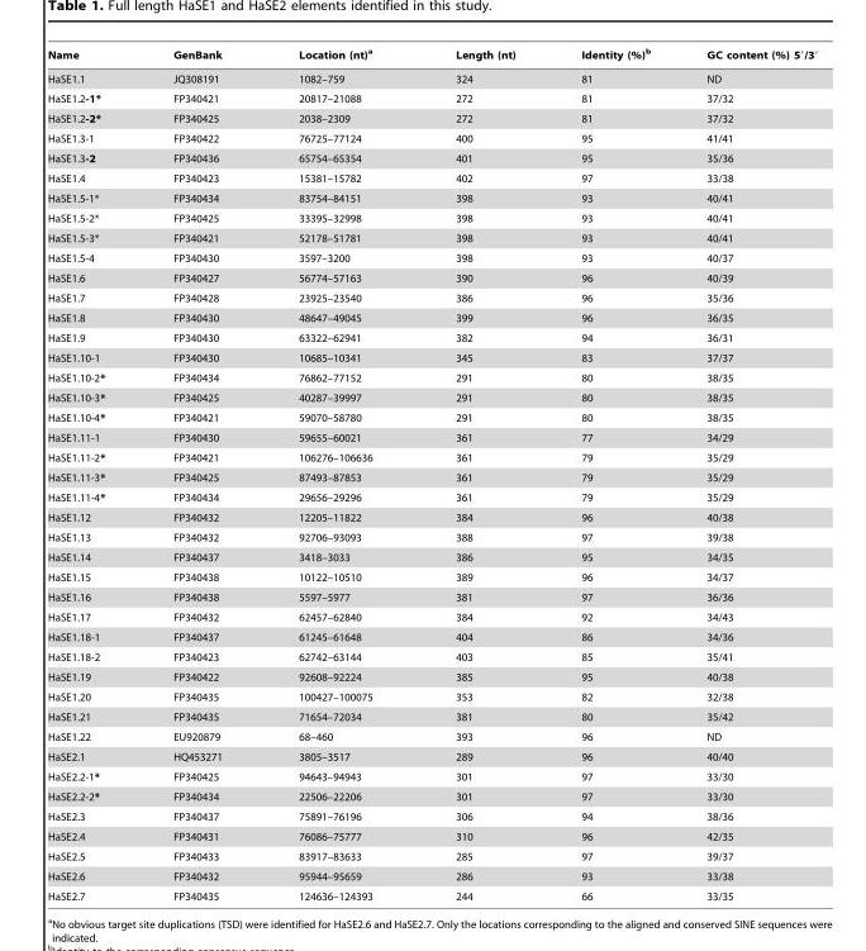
<table><thead><tr><td>Name</td><td>GenBank</td><td>Location (nt)<sup>a</sup></td><td>Length (nt)</td><td>Identity (%)<sup>b</sup></td><td>GC content (%) 5′/3′</td></tr></thead><tbody><tr><td>HaSE1.1</td><td>JQ308191</td><td>1082–759</td><td>324</td><td>81</td><td>ND</td></tr><tr><td>HaSE1.2-1*</td><td>FP340421</td><td>20817–21088</td><td>272</td><td>81</td><td>37/32</td></tr><tr><td>HaSE1.2-2*</td><td>FP340425</td><td>2038–2309</td><td>272</td><td>81</td><td>37/32</td></tr><tr><td>HaSE1.3-1</td><td>FP340422</td><td>76725–77124</td><td>400</td><td>95</td><td>41/41</td></tr><tr><td>HaSE1.3-2</td><td>FP340436</td><td>65754–65354</td><td>401</td><td>95</td><td>35/36</td></tr><tr><td>HaSE1.4</td><td>FP340423</td><td>15381–15782</td><td>402</td><td>97</td><td>33/38</td></tr><tr><td>HaSE1.5-1*</td><td>FP340434</td><td>83754–84151</td><td>398</td><td>93</td><td>40/41</td></tr><tr><td>HaSE1.5-2*</td><td>FP340425</td><td>33395–32998</td><td>398</td><td>93</td><td>40/41</td></tr><tr><td>HaSE1.5-3*</td><td>FP340421</td><td>52178–51781</td><td>398</td><td>93</td><td>40/41</td></tr><tr><td>HaSE1.5-4</td><td>FP340430</td><td>3597–3200</td><td>398</td><td>93</td><td>40/37</td></tr><tr><td>HaSE1.6</td><td>FP340427</td><td>56774–57163</td><td>390</td><td>96</td><td>40/39</td></tr><tr><td>HaSE1.7</td><td>FP340428</td><td>23925–23540</td><td>386</td><td>96</td><td>35/36</td></tr><tr><td>HaSE1.8</td><td>FP340430</td><td>48647–49045</td><td>399</td><td>96</td><td>36/35</td></tr><tr><td>HaSE1.9</td><td>FP340430</td><td>63322–62941</td><td>382</td><td>94</td><td>36/31</td></tr><tr><td>HaSE1.10-1</td><td>FP340430</td><td>10685–10341</td><td>345</td><td>83</td><td>37/37</td></tr><tr><td>HaSE1.10-2*</td><td>FP340434</td><td>76862–77152</td><td>291</td><td>80</td><td>38/35</td></tr><tr><td>HaSE1.10-3*</td><td>FP340425</td><td>40287–39997</td><td>291</td><td>80</td><td>38/35</td></tr><tr><td>HaSE1.10-4*</td><td>FP340421</td><td>59070–58780</td><td>291</td><td>80</td><td>38/35</td></tr><tr><td>HaSE1.11-1</td><td>FP340430</td><td>59655–60021</td><td>361</td><td>77</td><td>34/29</td></tr><tr><td>HaSE1.11-2*</td><td>FP340421</td><td>106276–106636</td><td>361</td><td>79</td><td>35/29</td></tr><tr><td>HaSE1.11-3*</td><td>FP340425</td><td>87493–87853</td><td>361</td><td>79</td><td>35/29</td></tr><tr><td>HaSE1.11-4*</td><td>FP340434</td><td>29656–29296</td><td>361</td><td>79</td><td>35/29</td></tr><tr><td>HaSE1.12</td><td>FP340432</td><td>12205–11822</td><td>384</td><td>96</td><td>40/38</td></tr><tr><td>HaSE1.13</td><td>FP340432</td><td>92706–93093</td><td>388</td><td>97</td><td>39/38</td></tr><tr><td>HaSE1.14</td><td>FP340437</td><td>3418–3033</td><td>386</td><td>95</td><td>34/35</td></tr><tr><td>HaSE1.15</td><td>FP340438</td><td>10122–10510</td><td>389</td><td>96</td><td>34/37</td></tr><tr><td>HaSE1.16</td><td>FP340438</td><td>5597–5977</td><td>381</td><td>97</td><td>36/36</td></tr><tr><td>HaSE1.17</td><td>FP340432</td><td>62457–62840</td><td>384</td><td>92</td><td>34/43</td></tr><tr><td>HaSE1.18-1</td><td>FP340437</td><td>61245–61648</td><td>404</td><td>86</td><td>34/36</td></tr><tr><td>HaSE1.18-2</td><td>FP340423</td><td>62742–63144</td><td>403</td><td>85</td><td>35/41</td></tr><tr><td>HaSE1.19</td><td>FP340422</td><td>92608–92224</td><td>385</td><td>95</td><td>40/38</td></tr><tr><td>HaSE1.20</td><td>FP340435</td><td>100427–100075</td><td>353</td><td>82</td><td>32/38</td></tr><tr><td>HaSE1.21</td><td>FP340435</td><td>71654–72034</td><td>381</td><td>80</td><td>35/42</td></tr><tr><td>HaSE1.22</td><td>EU920879</td><td>68–460</td><td>393</td><td>96</td><td>ND</td></tr><tr><td>HaSE2.1</td><td>HQ453271</td><td>3805–3517</td><td>289</td><td>96</td><td>40/40</td></tr><tr><td>HaSE2.2-1*</td><td>FP340425</td><td>94643–94943</td><td>301</td><td>97</td><td>33/30</td></tr><tr><td>HaSE2.2-2*</td><td>FP340434</td><td>22506–22206</td><td>301</td><td>97</td><td>33/30</td></tr><tr><td>HaSE2.3</td><td>FP340437</td><td>75891–76196</td><td>306</td><td>94</td><td>38/36</td></tr><tr><td>HaSE2.4</td><td>FP340431</td><td>76086–75777</td><td>310</td><td>96</td><td>42/35</td></tr><tr><td>HaSE2.5</td><td>FP340433</td><td>83917–83633</td><td>285</td><td>97</td><td>39/37</td></tr><tr><td>HaSE2.6</td><td>FP340432</td><td>95944–95659</td><td>286</td><td>93</td><td>33/38</td></tr><tr><td>HaSE2.7</td><td>FP340435</td><td>124636–124393</td><td>244</td><td>66</td><td>33/35</td></tr></tbody></table>